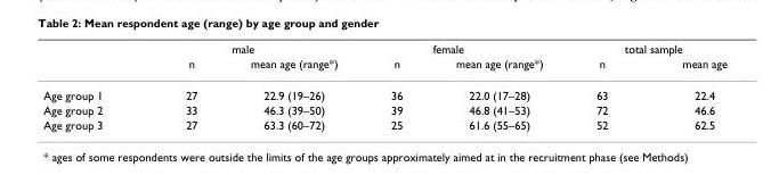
<table><thead><tr><td rowspan="2"></td><td colspan="2">male</td><td colspan="2">female</td><td colspan="2">total sample</td></tr><tr><td>n</td><td>mean age (range*)</td><td>n</td><td>mean age (range*)</td><td>n</td><td>mean age</td></tr></thead><tbody><tr><td>Age group 1</td><td>27</td><td>22.9 (19–26)</td><td>36</td><td>22.0 (17–28)</td><td>63</td><td>22.4</td></tr><tr><td>Age group 2</td><td>33</td><td>46.3 (39–50)</td><td>39</td><td>46.8 (41–53)</td><td>72</td><td>46.6</td></tr><tr><td>Age group 3</td><td>27</td><td>63.3 (60–72)</td><td>25</td><td>61.6 (55–65)</td><td>52</td><td>62.5</td></tr></tbody></table>